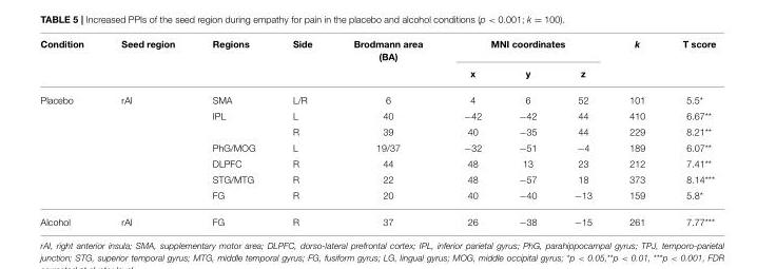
<table><thead><tr><td rowspan="2">Condition</td><td rowspan="2">Seed region</td><td rowspan="2">Regions</td><td rowspan="2">Side</td><td rowspan="2">Brodmann area (BA)</td><td colspan="3">MNI coordinates</td><td rowspan="2">k</td><td rowspan="2">T score</td></tr><tr><td>x</td><td>y</td><td>z</td></tr></thead><tbody><tr><td rowspan="7">Placebo</td><td>rAI</td><td>SMA</td><td>L/R</td><td>6</td><td>4</td><td>6</td><td>52</td><td>101</td><td>5.5*</td></tr><tr><td></td><td>IPL</td><td>L</td><td>40</td><td>−42</td><td>−42</td><td>44</td><td>410</td><td>6.67**</td></tr><tr><td></td><td></td><td>R</td><td>39</td><td>40</td><td>−35</td><td>44</td><td>229</td><td>8.21**</td></tr><tr><td></td><td>PhG/MOG</td><td>L</td><td>19/37</td><td>−32</td><td>−51</td><td>−4</td><td>189</td><td>6.07**</td></tr><tr><td></td><td>DLPFC</td><td>R</td><td>44</td><td>48</td><td>13</td><td>23</td><td>212</td><td>7.41**</td></tr><tr><td></td><td>STG/MTG</td><td>R</td><td>22</td><td>48</td><td>−57</td><td>18</td><td>373</td><td>8.14***</td></tr><tr><td></td><td>FG</td><td>R</td><td>20</td><td>40</td><td>−40</td><td>−13</td><td>159</td><td>5.8*</td></tr><tr><td>Alcohol</td><td>rAI</td><td>FG</td><td>R</td><td>37</td><td>26</td><td>−38</td><td>−15</td><td>261</td><td>7.77***</td></tr></tbody></table>